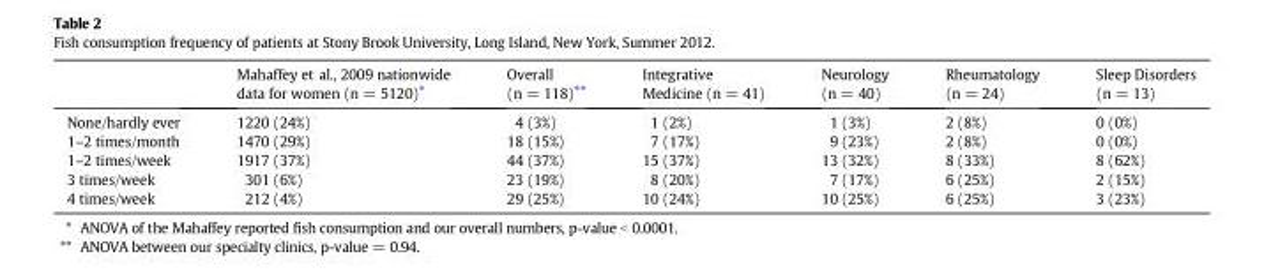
<table><thead><tr><td></td><td>Mahaffey et al., 2009 nationwide data for women (n = 5120)⁎</td><td>Overall (n = 118)⁎⁎</td><td>Integrative Medicine (n = 41)</td><td>Neurology (n = 40)</td><td>Rheumatology (n = 24)</td><td>Sleep Disorders (n = 13)</td></tr></thead><tbody><tr><td>None/hardly ever</td><td>1220 (24%)</td><td>4 (3%)</td><td>1 (2%)</td><td>1 (3%)</td><td>2 (8%)</td><td>0 (0%)</td></tr><tr><td>1–2 times/month</td><td>1470 (29%)</td><td>18 (15%)</td><td>7 (17%)</td><td>9 (23%)</td><td>2 (8%)</td><td>0 (0%)</td></tr><tr><td>1–2 times/week</td><td>1917 (37%)</td><td>44 (37%)</td><td>15 (37%)</td><td>13 (32%)</td><td>8 (33%)</td><td>8 (62%)</td></tr><tr><td>3 times/week</td><td>301 (6%)</td><td>23 (19%)</td><td>8 (20%)</td><td>7 (17%)</td><td>6 (25%)</td><td>2 (15%)</td></tr><tr><td>4 times/week</td><td>212 (4%)</td><td>29 (25%)</td><td>10 (24%)</td><td>10 (25%)</td><td>6 (25%)</td><td>3 (23%)</td></tr></tbody></table>